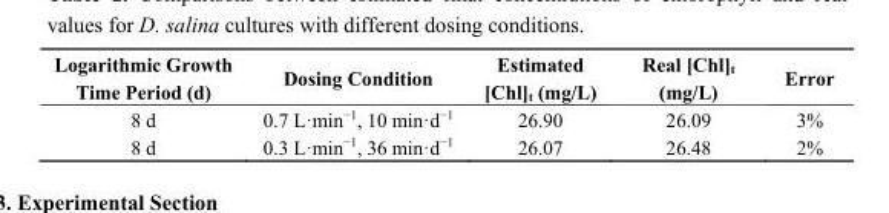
<table><thead><tr><td>Logarithmic Growth Time Period (d)</td><td>Dosing Condition</td><td>Estimated [Chl]<sub>t</sub> (mg/L)</td><td>Real [Chl]<sub>t</sub> (mg/L)</td><td>Error</td></tr></thead><tbody><tr><td>8 d</td><td>0.7 L·min<sup>−1</sup>, 10 min·d<sup>−1</sup></td><td>26.90</td><td>26.09</td><td>3%</td></tr><tr><td>8 d</td><td>0.3 L·min<sup>−1</sup>, 36 min·d<sup>−1</sup></td><td>26.07</td><td>26.48</td><td>2%</td></tr></tbody></table>